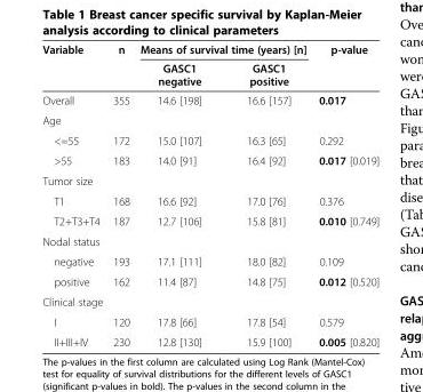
<table><thead><tr><td rowspan="2">Variable</td><td rowspan="2">n</td><td colspan="2">Means of survival time (years) [n]</td><td rowspan="2">p-value</td></tr><tr><td>GASC1 negative</td><td>GASC1 positive</td></tr></thead><tbody><tr><td>Overall</td><td>355</td><td>14.6 [198]</td><td>16.6 [157]</td><td>0.017</td></tr><tr><td colspan="5">Age</td></tr><tr><td>&lt;=55</td><td>172</td><td>15.0 [107]</td><td>16.3 [65]</td><td>0.292</td></tr><tr><td>&gt;55</td><td>183</td><td>14.0 [91]</td><td>16.4 [92]</td><td>0.017 [0.019]</td></tr><tr><td colspan="5">Tumor size</td></tr><tr><td>T1</td><td>168</td><td>16.6 [92]</td><td>17.0 [76]</td><td>0.376</td></tr><tr><td>T2+T3+T4</td><td>187</td><td>12.7 [106]</td><td>15.8 [81]</td><td>0.010 [0.749]</td></tr><tr><td colspan="5">Nodal status</td></tr><tr><td>negative</td><td>193</td><td>17.1 [111]</td><td>18.0 [82]</td><td>0.109</td></tr><tr><td>positive</td><td>162</td><td>11.4 [87]</td><td>14.8 [75]</td><td>0.012 [0.520]</td></tr><tr><td colspan="5">Clinical stage</td></tr><tr><td>I</td><td>120</td><td>17.8 [66]</td><td>17.8 [54]</td><td>0.579</td></tr><tr><td>II+III+IV</td><td>230</td><td>12.8 [130]</td><td>15.9 [100]</td><td>0.005 [0.820]</td></tr></tbody></table>